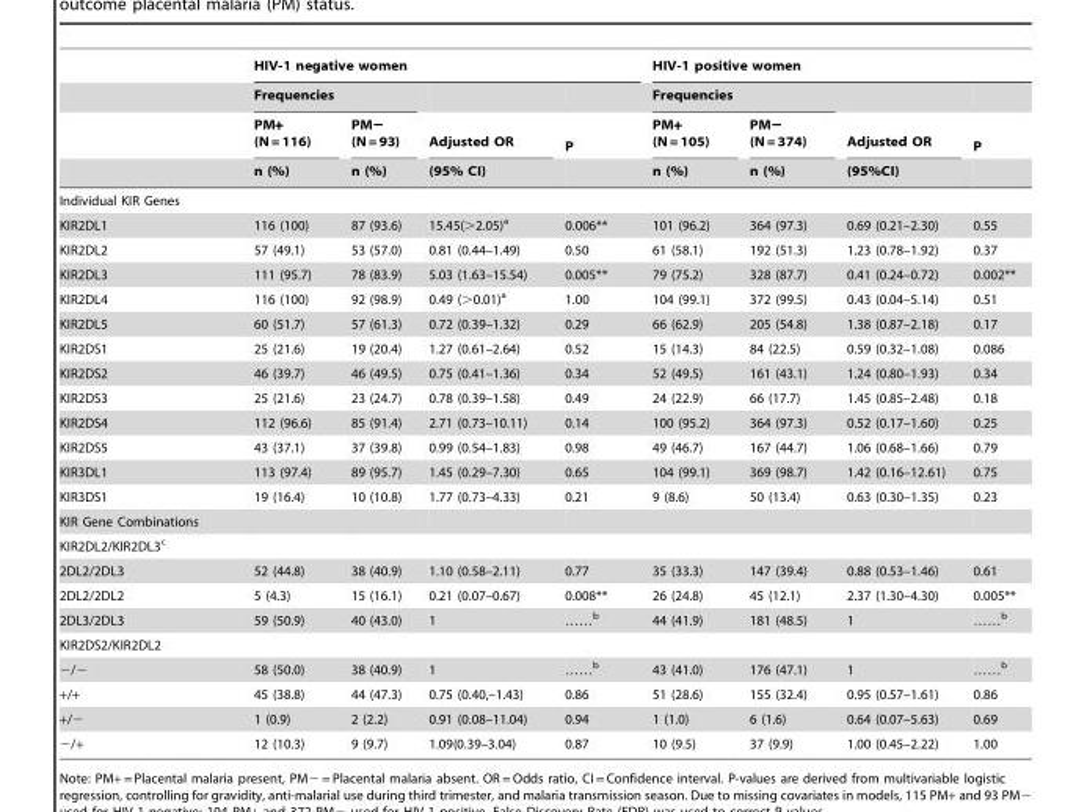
<table><thead><tr><td rowspan="4"></td><td colspan="4">HIV-1 negative women</td><td colspan="4">HIV-1 positive women</td></tr><tr><td colspan="2">Frequencies</td><td rowspan="3">Adjusted OR (95% CI)</td><td rowspan="3">P</td><td colspan="2">Frequencies</td><td rowspan="3">Adjusted OR (95%CI)</td><td rowspan="3">P</td></tr><tr><td rowspan="2">PM+ (N = 116) n (%)</td><td rowspan="2">PM− (N = 93) n (%)</td><td rowspan="2">PM+ (N = 105) n (%)</td><td rowspan="2">PM− (N = 374) n (%)</td></tr><tr></tr></thead><tbody><tr><td colspan="9">Individual KIR Genes</td></tr><tr><td>KIR2DL1</td><td>116 (100)</td><td>87 (93.6)</td><td>15.45(&gt;2.05)<sup>a</sup></td><td>0.006**</td><td>101 (96.2)</td><td>364 (97.3)</td><td>0.69 (0.21–2.30)</td><td>0.55</td></tr><tr><td>KIR2DL2</td><td>57 (49.1)</td><td>53 (57.0)</td><td>0.81 (0.44–1.49)</td><td>0.50</td><td>61 (58.1)</td><td>192 (51.3)</td><td>1.23 (0.78–1.92)</td><td>0.37</td></tr><tr><td>KIR2DL3</td><td>111 (95.7)</td><td>78 (83.9)</td><td>5.03 (1.63–15.54)</td><td>0.005**</td><td>79 (75.2)</td><td>328 (87.7)</td><td>0.41 (0.24–0.72)</td><td>0.002**</td></tr><tr><td>KIR2DL4</td><td>116 (100)</td><td>92 (98.9)</td><td>0.49 (&gt;0.01)<sup>a</sup></td><td>1.00</td><td>104 (99.1)</td><td>372 (99.5)</td><td>0.43 (0.04–5.14)</td><td>0.51</td></tr><tr><td>KIR2DL5</td><td>60 (51.7)</td><td>57 (61.3)</td><td>0.72 (0.39–1.32)</td><td>0.29</td><td>66 (62.9)</td><td>205 (54.8)</td><td>1.38 (0.87–2.18)</td><td>0.17</td></tr><tr><td>KIR2DS1</td><td>25 (21.6)</td><td>19 (20.4)</td><td>1.27 (0.61–2.64)</td><td>0.52</td><td>15 (14.3)</td><td>84 (22.5)</td><td>0.59 (0.32–1.08)</td><td>0.086</td></tr><tr><td>KIR2DS2</td><td>46 (39.7)</td><td>46 (49.5)</td><td>0.75 (0.41–1.36)</td><td>0.34</td><td>52 (49.5)</td><td>161 (43.1)</td><td>1.24 (0.80–1.93)</td><td>0.34</td></tr><tr><td>KIR2DS3</td><td>25 (21.6)</td><td>23 (24.7)</td><td>0.78 (0.39–1.58)</td><td>0.49</td><td>24 (22.9)</td><td>66 (17.7)</td><td>1.45 (0.85–2.48)</td><td>0.18</td></tr><tr><td>KIR2DS4</td><td>112 (96.6)</td><td>85 (91.4)</td><td>2.71 (0.73–10.11)</td><td>0.14</td><td>100 (95.2)</td><td>364 (97.3)</td><td>0.52 (0.17–1.60)</td><td>0.25</td></tr><tr><td>KIR2DS5</td><td>43 (37.1)</td><td>37 (39.8)</td><td>0.99 (0.54–1.83)</td><td>0.98</td><td>49 (46.7)</td><td>167 (44.7)</td><td>1.06 (0.68–1.66)</td><td>0.79</td></tr><tr><td>KIR3DL1</td><td>113 (97.4)</td><td>89 (95.7)</td><td>1.45 (0.29–7.30)</td><td>0.65</td><td>104 (99.1)</td><td>369 (98.7)</td><td>1.42 (0.16–12.61)</td><td>0.75</td></tr><tr><td>KIR3DS1</td><td>19 (16.4)</td><td>10 (10.8)</td><td>1.77 (0.73–4.33)</td><td>0.21</td><td>9 (8.6)</td><td>50 (13.4)</td><td>0.63 (0.30–1.35)</td><td>0.23</td></tr><tr><td colspan="9">KIR Gene Combinations</td></tr><tr><td colspan="9">KIR2DL2/KIR2DL3<sup>c</sup></td></tr><tr><td>2DL2/2DL3</td><td>52 (44.8)</td><td>38 (40.9)</td><td>1.10 (0.58–2.11)</td><td>0.77</td><td>35 (33.3)</td><td>147 (39.4)</td><td>0.88 (0.53–1.46)</td><td>0.61</td></tr><tr><td>2DL2/2DL2</td><td>5 (4.3)</td><td>15 (16.1)</td><td>0.21 (0.07–0.67)</td><td>0.008**</td><td>26 (24.8)</td><td>45 (12.1)</td><td>2.37 (1.30–4.30)</td><td>0.005**</td></tr><tr><td>2DL3/2DL3</td><td>59 (50.9)</td><td>40 (43.0)</td><td>1</td><td>……<sup>b</sup></td><td>44 (41.9)</td><td>181 (48.5)</td><td>1</td><td>……<sup>b</sup></td></tr><tr><td colspan="9">KIR2DS2/KIR2DL2</td></tr><tr><td>−/−</td><td>58 (50.0)</td><td>38 (40.9)</td><td>1</td><td>……<sup>b</sup></td><td>43 (41.0)</td><td>176 (47.1)</td><td>1</td><td>……<sup>b</sup></td></tr><tr><td>+/+</td><td>45 (38.8)</td><td>44 (47.3)</td><td>0.75 (0.40,–1.43)</td><td>0.86</td><td>51 (28.6)</td><td>155 (32.4)</td><td>0.95 (0.57–1.61)</td><td>0.86</td></tr><tr><td>+/−</td><td>1 (0.9)</td><td>2 (2.2)</td><td>0.91 (0.08–11.04)</td><td>0.94</td><td>1 (1.0)</td><td>6 (1.6)</td><td>0.64 (0.07–5.63)</td><td>0.69</td></tr><tr><td>−/+</td><td>12 (10.3)</td><td>9 (9.7)</td><td>1.09(0.39–3.04)</td><td>0.87</td><td>10 (9.5)</td><td>37 (9.9)</td><td>1.00 (0.45–2.22)</td><td>1.00</td></tr></tbody></table>